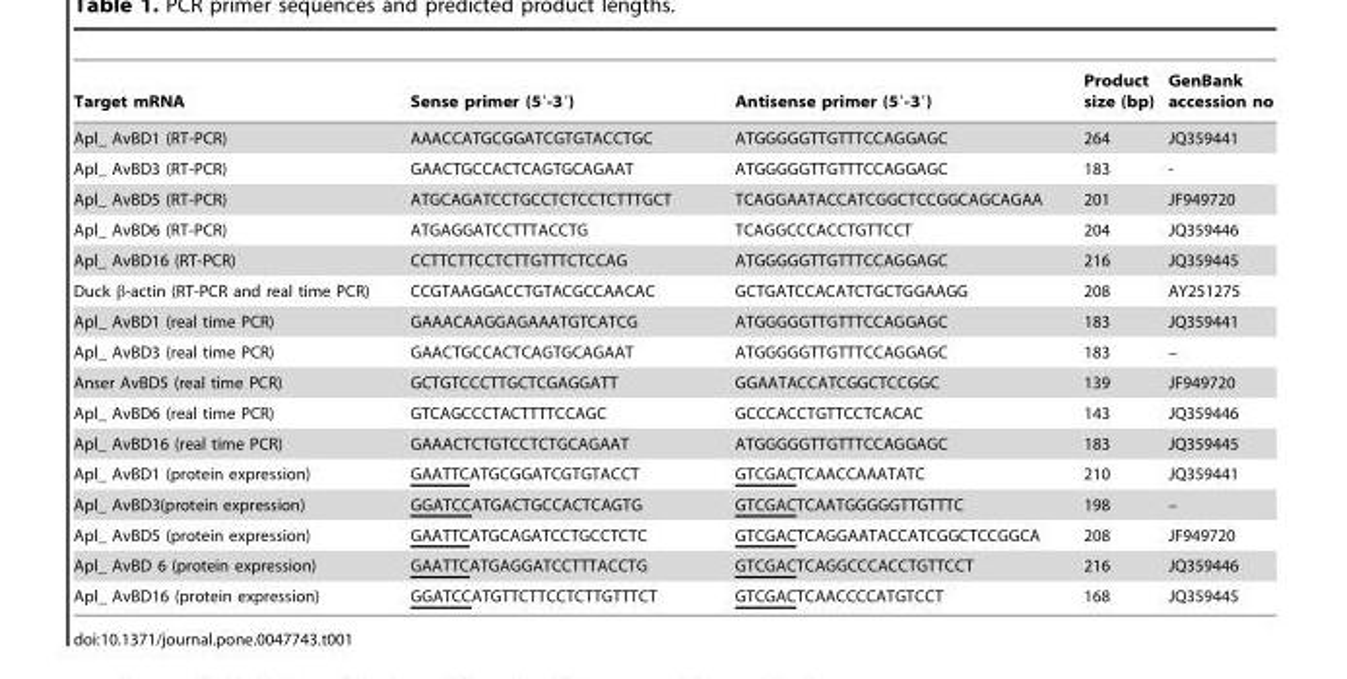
<table><thead><tr><td>Target mRNA</td><td>Sense primer (5′-3′)</td><td>Antisense primer (5′-3′)</td><td>Product size (bp)</td><td>GenBank accession no</td></tr></thead><tbody><tr><td>Apl_ AvBD1 (RT-PCR)</td><td>AAACCATGCGGATCGTGTACCTGC</td><td>ATGGGGGTTGTTTCCAGGAGC</td><td>264</td><td>JQ359441</td></tr><tr><td>Apl_ AvBD3 (RT-PCR)</td><td>GAACTGCCACTCAGTGCAGAAT</td><td>ATGGGGGTTGTTTCCAGGAGC</td><td>183</td><td>-</td></tr><tr><td>Apl_ AvBD5 (RT-PCR)</td><td>ATGCAGATCCTGCCTCTCCTCTTTGCT</td><td>TCAGGAATACCATCGGCTCCGGCAGCAGAA</td><td>201</td><td>JF949720</td></tr><tr><td>Apl_ AvBD6 (RT-PCR)</td><td>ATGAGGATCCTTTACCTG</td><td>TCAGGCCCACCTGTTCCT</td><td>204</td><td>JQ359446</td></tr><tr><td>Apl_ AvBD16 (RT-PCR)</td><td>CCTTCTTCCTCTTGTTTCTCCAG</td><td>ATGGGGGTTGTTTCCAGGAGC</td><td>216</td><td>JQ359445</td></tr><tr><td>Duck β-actin (RT-PCR and real time PCR)</td><td>CCGTAAGGACCTGTACGCCAACAC</td><td>GCTGATCCACATCTGCTGGAAGG</td><td>208</td><td>AY251275</td></tr><tr><td>Apl_ AvBD1 (real time PCR)</td><td>GAAACAAGGAGAAATGTCATCG</td><td>ATGGGGGTTGTTTCCAGGAGC</td><td>183</td><td>JQ359441</td></tr><tr><td>Apl_ AvBD3 (real time PCR)</td><td>GAACTGCCACTCAGTGCAGAAT</td><td>ATGGGGGTTGTTTCCAGGAGC</td><td>183</td><td>–</td></tr><tr><td>Anser AvBD5 (real time PCR)</td><td>GCTGTCCCTTGCTCGAGGATT</td><td>GGAATACCATCGGCTCCGGC</td><td>139</td><td>JF949720</td></tr><tr><td>Apl_ AvBD6 (real time PCR)</td><td>GTCAGCCCTACTTTTCCAGC</td><td>GCCCACCTGTTCCTCACAC</td><td>143</td><td>JQ359446</td></tr><tr><td>Apl_ AvBD16 (real time PCR)</td><td>GAAACTCTGTCCTCTGCAGAAT</td><td>ATGGGGGTTGTTTCCAGGAGC</td><td>183</td><td>JQ359445</td></tr><tr><td>Apl_ AvBD1 (protein expression)</td><td>GAATTCATGCGGATCGTGTACCT</td><td>GTCGACTCAACCAAATATC</td><td>210</td><td>JQ359441</td></tr><tr><td>Apl_ AvBD3(protein expression)</td><td>GGATCCATGACTGCCACTCAGTG</td><td>GTCGACTCAATGGGGGTTGTTTC</td><td>198</td><td>–</td></tr><tr><td>Apl_ AvBD5 (protein expression)</td><td>GAATTCATGCAGATCCTGCCTCTC</td><td>GTCGACTCAGGAATACCATCGGCTCCGGCA</td><td>208</td><td>JF949720</td></tr><tr><td>Apl_ AvBD 6 (protein expression)</td><td>GAATTCATGAGGATCCTTTACCTG</td><td>GTCGACTCAGGCCCACCTGTTCCT</td><td>216</td><td>JQ359446</td></tr><tr><td>Apl_ AvBD16 (protein expression)</td><td>GGATCCATGTTCTTCCTCTTGTTTCT</td><td>GTCGACTCAACCCCATGTCCT</td><td>168</td><td>JQ359445</td></tr></tbody></table>